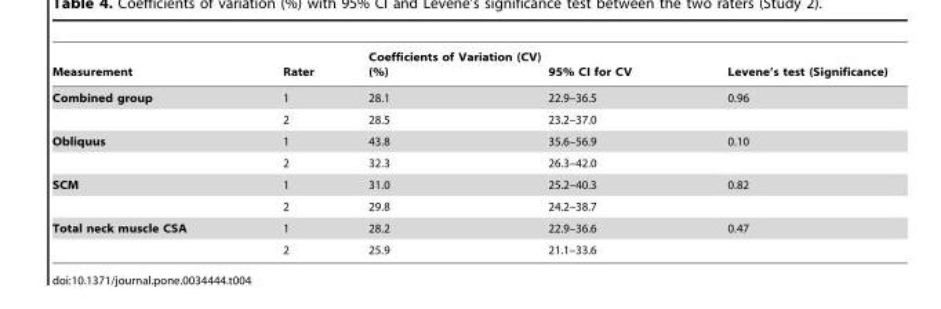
<table><thead><tr><td>Measurement</td><td>Rater</td><td>Coefficients of Variation (CV) (%)</td><td>95% CI for CV</td><td>Levene’s test (Significance)</td></tr></thead><tbody><tr><td rowspan="2">Combined group</td><td>1</td><td>28.1</td><td>22.9–36.5</td><td>0.96</td></tr><tr><td>2</td><td>28.5</td><td>23.2–37.0</td><td></td></tr><tr><td rowspan="2">Obliquus</td><td>1</td><td>43.8</td><td>35.6–56.9</td><td>0.10</td></tr><tr><td>2</td><td>32.3</td><td>26.3–42.0</td><td></td></tr><tr><td rowspan="2">SCM</td><td>1</td><td>31.0</td><td>25.2–40.3</td><td>0.82</td></tr><tr><td>2</td><td>29.8</td><td>24.2–38.7</td><td></td></tr><tr><td rowspan="2">Total neck muscle CSA</td><td>1</td><td>28.2</td><td>22.9–36.6</td><td>0.47</td></tr><tr><td>2</td><td>25.9</td><td>21.1–33.6</td><td></td></tr></tbody></table>